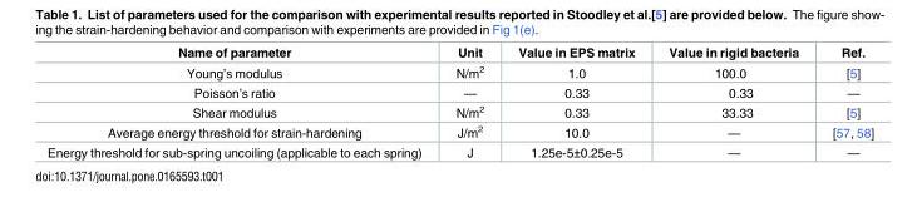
<table><thead><tr><td>Name of parameter</td><td>Unit</td><td>Value in EPS matrix</td><td>Value in rigid bacteria</td><td>Ref.</td></tr></thead><tbody><tr><td>Young’s modulus</td><td>N/m<sup>2</sup></td><td>1.0</td><td>100.0</td><td>[5]</td></tr><tr><td>Poisson’s ratio</td><td>—</td><td>0.33</td><td>0.33</td><td>—</td></tr><tr><td>Shear modulus</td><td>N/m<sup>2</sup></td><td>0.33</td><td>33.33</td><td>[5]</td></tr><tr><td>Average energy threshold for strain-hardening</td><td>J/m<sup>2</sup></td><td>10.0</td><td>—</td><td>[57, 58]</td></tr><tr><td>Energy threshold for sub-spring uncoiling (applicable to each spring)</td><td>J</td><td>1.25e-5±0.25e-5</td><td>—</td><td>—</td></tr></tbody></table>